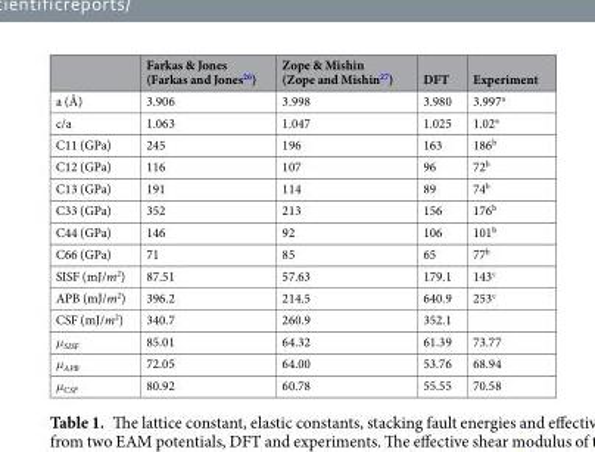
<table><thead><tr><td></td><td>Farkas &amp; Jones (Farkas and Jones<sup>26</sup>)</td><td>Zope &amp; Mishin (Zope and Mishin<sup>27</sup>)</td><td>DFT</td><td>Experiment</td></tr></thead><tbody><tr><td>a (Å)</td><td>3.906</td><td>3.998</td><td>3.980</td><td>3.997<sup>a</sup></td></tr><tr><td>c/a</td><td>1.063</td><td>1.047</td><td>1.025</td><td>1.02<sup>a</sup></td></tr><tr><td>C11 (GPa)</td><td>245</td><td>196</td><td>163</td><td>186<sup>b</sup></td></tr><tr><td>C12 (GPa)</td><td>116</td><td>107</td><td>96</td><td>72<sup>b</sup></td></tr><tr><td>C13 (GPa)</td><td>191</td><td>114</td><td>89</td><td>74<sup>b</sup></td></tr><tr><td>C33 (GPa)</td><td>352</td><td>213</td><td>156</td><td>176<sup>b</sup></td></tr><tr><td>C44 (GPa)</td><td>146</td><td>92</td><td>106</td><td>101<sup>b</sup></td></tr><tr><td>C66 (GPa)</td><td>71</td><td>85</td><td>65</td><td>77<sup>b</sup></td></tr><tr><td>SISF (mJ/m<sup>2</sup>)</td><td>87.51</td><td>57.63</td><td>179.1</td><td>143<sup>c</sup></td></tr><tr><td>APB (mJ/m<sup>2</sup>)</td><td>396.2</td><td>214.5</td><td>640.9</td><td>253<sup>c</sup></td></tr><tr><td>CSF (mJ/m<sup>2</sup>)</td><td>340.7</td><td>260.9</td><td>352.1</td><td></td></tr><tr><td>μ<sub>SISF</sub></td><td>85.01</td><td>64.32</td><td>61.39</td><td>73.77</td></tr><tr><td>μ<sub>APB</sub></td><td>72.05</td><td>64.00</td><td>53.76</td><td>68.94</td></tr><tr><td>μ<sub>CSF</sub></td><td>80.92</td><td>60.78</td><td>55.55</td><td>70.58</td></tr></tbody></table>